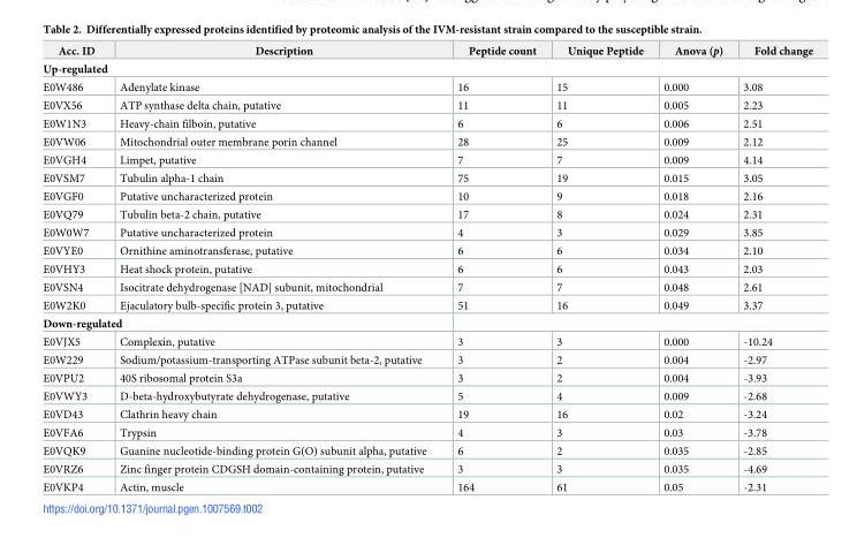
<table><thead><tr><td>Acc. ID</td><td>Description</td><td>Peptide count</td><td>Unique Peptide</td><td>Anova (p)</td><td>Fold change</td></tr></thead><tbody><tr><td colspan="6">Up-regulated</td></tr><tr><td>E0W486</td><td>Adenylate kinase</td><td>16</td><td>15</td><td>0.000</td><td>3.08</td></tr><tr><td>E0VX56</td><td>ATP synthase delta chain, putative</td><td>11</td><td>11</td><td>0.005</td><td>2.23</td></tr><tr><td>E0W1N3</td><td>Heavy-chain filboin, putative</td><td>6</td><td>6</td><td>0.006</td><td>2.51</td></tr><tr><td>E0VW06</td><td>Mitochondrial outer membrane porin channel</td><td>28</td><td>25</td><td>0.009</td><td>2.12</td></tr><tr><td>E0VGH4</td><td>Limpet, putative</td><td>7</td><td>7</td><td>0.009</td><td>4.14</td></tr><tr><td>E0VSM7</td><td>Tubulin alpha-1 chain</td><td>75</td><td>19</td><td>0.015</td><td>3.05</td></tr><tr><td>E0VGF0</td><td>Putative uncharacterized protein</td><td>10</td><td>9</td><td>0.018</td><td>2.16</td></tr><tr><td>E0VQ79</td><td>Tubulin beta-2 chain, putative</td><td>17</td><td>8</td><td>0.024</td><td>2.31</td></tr><tr><td>E0W0W7</td><td>Putative uncharacterized protein</td><td>4</td><td>3</td><td>0.029</td><td>3.85</td></tr><tr><td>E0VYE0</td><td>Ornithine aminotransferase, putative</td><td>6</td><td>6</td><td>0.034</td><td>2.10</td></tr><tr><td>E0VHY3</td><td>Heat shock protein, putative</td><td>6</td><td>6</td><td>0.043</td><td>2.03</td></tr><tr><td>E0VSN4</td><td>Isocitrate dehydrogenase [NAD] subunit, mitochondrial</td><td>7</td><td>7</td><td>0.048</td><td>2.61</td></tr><tr><td>E0W2K0</td><td>Ejaculatory bulb-specific protein 3, putative</td><td>51</td><td>16</td><td>0.049</td><td>3.37</td></tr><tr><td colspan="6">Down-regulated</td></tr><tr><td>E0VJX5</td><td>Complexin, putative</td><td>3</td><td>3</td><td>0.000</td><td>-10.24</td></tr><tr><td>E0W229</td><td>Sodium/potassium-transporting ATPase subunit beta-2, putative</td><td>3</td><td>2</td><td>0.004</td><td>-2.97</td></tr><tr><td>E0VPU2</td><td>40S ribosomal protein S3a</td><td>3</td><td>2</td><td>0.004</td><td>-3.93</td></tr><tr><td>E0VWY3</td><td>D-beta-hydroxybutyrate dehydrogenase, putative</td><td>5</td><td>4</td><td>0.009</td><td>-2.68</td></tr><tr><td>E0VD43</td><td>Clathrin heavy chain</td><td>19</td><td>16</td><td>0.02</td><td>-3.24</td></tr><tr><td>E0VFA6</td><td>Trypsin</td><td>4</td><td>3</td><td>0.03</td><td>-3.78</td></tr><tr><td>E0VQK9</td><td>Guanine nucleotide-binding protein G(O) subunit alpha, putative</td><td>6</td><td>2</td><td>0.035</td><td>-2.85</td></tr><tr><td>E0VRZ6</td><td>Zinc finger protein CDGSH domain-containing protein, putative</td><td>3</td><td>3</td><td>0.035</td><td>-4.69</td></tr><tr><td>E0VKP4</td><td>Actin, muscle</td><td>164</td><td>61</td><td>0.05</td><td>-2.31</td></tr></tbody></table>